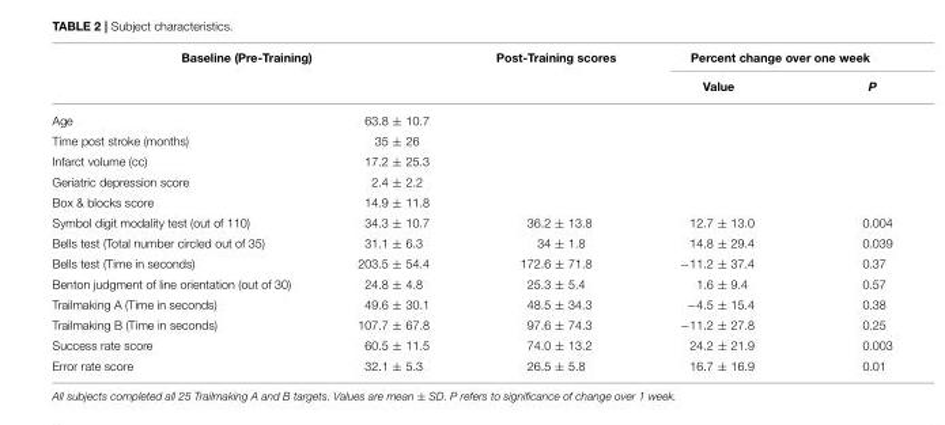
<table><thead><tr><td colspan="2">Baseline (Pre-Training)</td><td rowspan="2">Post-Training scores</td><td colspan="2">Percent change over one week</td></tr><tr><td></td><td></td><td>Value</td><td>P</td></tr></thead><tbody><tr><td>Age</td><td>63.8 ± 10.7</td><td></td><td></td><td></td></tr><tr><td>Time post stroke (months)</td><td>35 ± 26</td><td></td><td></td><td></td></tr><tr><td>Infarct volume (cc)</td><td>17.2 ± 25.3</td><td></td><td></td><td></td></tr><tr><td>Geriatric depression score</td><td>2.4 ± 2.2</td><td></td><td></td><td></td></tr><tr><td>Box &amp; blocks score</td><td>14.9 ± 11.8</td><td></td><td></td><td></td></tr><tr><td>Symbol digit modality test (out of 110)</td><td>34.3 ± 10.7</td><td>36.2 ± 13.8</td><td>12.7 ± 13.0</td><td>0.004</td></tr><tr><td>Bells test (Total number circled out of 35)</td><td>31.1 ± 6.3</td><td>34 ± 1.8</td><td>14.8 ± 29.4</td><td>0.039</td></tr><tr><td>Bells test (Time in seconds)</td><td>203.5 ± 54.4</td><td>172.6 ± 71.8</td><td>−11.2 ± 37.4</td><td>0.37</td></tr><tr><td>Benton judgment of line orientation (out of 30)</td><td>24.8 ± 4.8</td><td>25.3 ± 5.4</td><td>1.6 ± 9.4</td><td>0.57</td></tr><tr><td>Trailmaking A (Time in seconds)</td><td>49.6 ± 30.1</td><td>48.5 ± 34.3</td><td>−4.5 ± 15.4</td><td>0.38</td></tr><tr><td>Trailmaking B (Time in seconds)</td><td>107.7 ± 67.8</td><td>97.6 ± 74.3</td><td>−11.2 ± 27.8</td><td>0.25</td></tr><tr><td>Success rate score</td><td>60.5 ± 11.5</td><td>74.0 ± 13.2</td><td>24.2 ± 21.9</td><td>0.003</td></tr><tr><td>Error rate score</td><td>32.1 ± 5.3</td><td>26.5 ± 5.8</td><td>16.7 ± 16.9</td><td>0.01</td></tr></tbody></table>